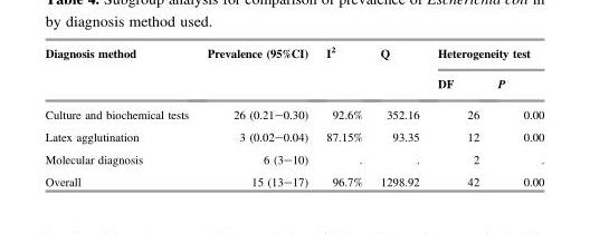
<table><thead><tr><td rowspan="2">Diagnosis method</td><td rowspan="2">Prevalence (95%CI)</td><td rowspan="2">I<sup>2</sup></td><td rowspan="2">Q</td><td colspan="2">Heterogeneity test</td></tr><tr><td>DF</td><td>P</td></tr></thead><tbody><tr><td>Culture and biochemical tests</td><td>26 (0.21–0.30)</td><td>92.6%</td><td>352.16</td><td>26</td><td>0.00</td></tr><tr><td>Latex agglutination</td><td>3 (0.02–0.04)</td><td>87.15%</td><td>93.35</td><td>12</td><td>0.00</td></tr><tr><td>Molecular diagnosis</td><td>6 (3–10)</td><td>.</td><td>.</td><td>2</td><td>.</td></tr><tr><td>Overall</td><td>15 (13–17)</td><td>96.7%</td><td>1298.92</td><td>42</td><td>0.00</td></tr></tbody></table>